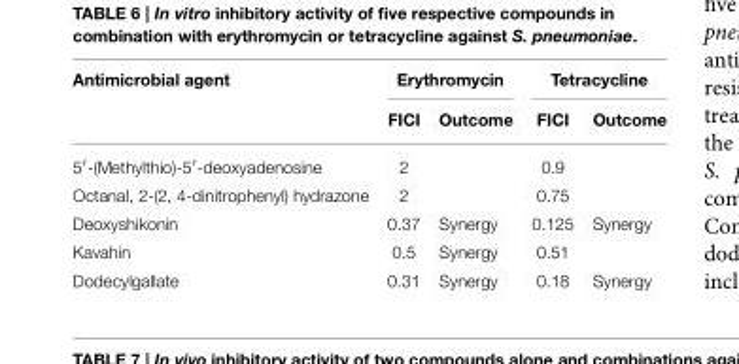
<table><thead><tr><td rowspan="2">Antimicrobial agent</td><td colspan="2">Erythromycin</td><td colspan="2">Tetracycline</td></tr><tr><td>FICI</td><td>Outcome</td><td>FICI</td><td>Outcome</td></tr></thead><tbody><tr><td>5′-(Methylthio)-5′-deoxyadenosine</td><td>2</td><td></td><td>0.9</td><td></td></tr><tr><td>Octanal, 2-(2, 4-dinitrophenyl) hydrazone</td><td>2</td><td></td><td>0.75</td><td></td></tr><tr><td>Deoxyshikonin</td><td>0.37</td><td>Synergy</td><td>0.125</td><td>Synergy</td></tr><tr><td>Kavahin</td><td>0.5</td><td>Synergy</td><td>0.51</td><td></td></tr><tr><td>Dodecylgallate</td><td>0.31</td><td>Synergy</td><td>0.18</td><td>Synergy</td></tr></tbody></table>